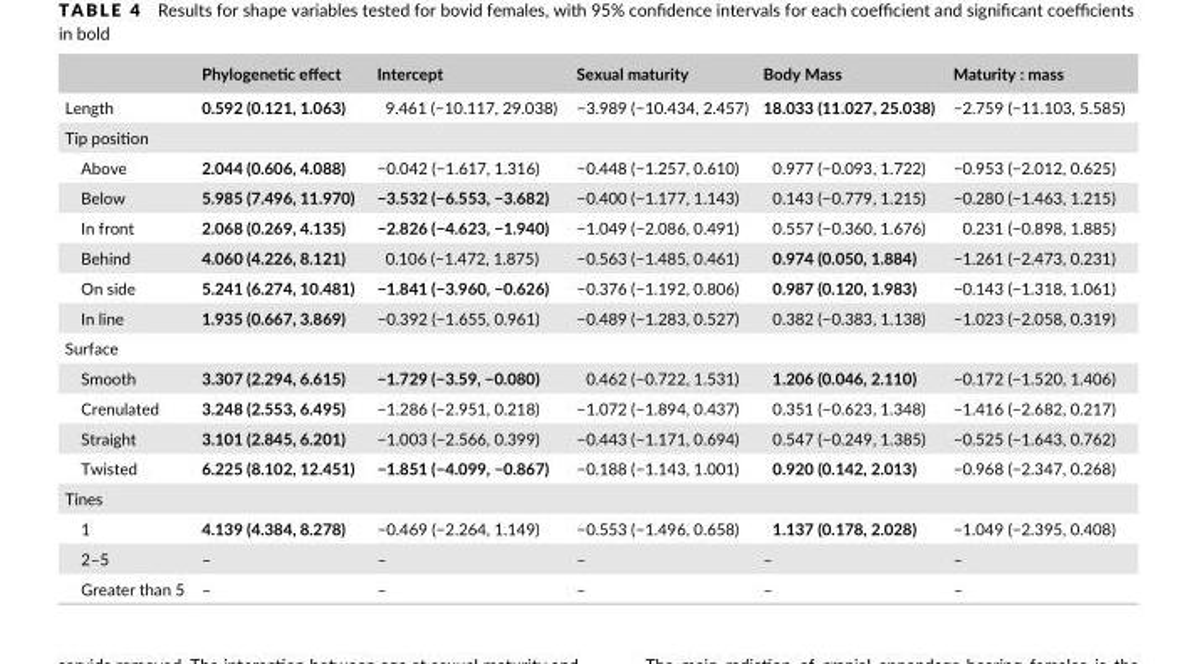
<table><thead><tr><td></td><td>Phylogenetic effect</td><td>Intercept</td><td>Sexual maturity</td><td>Body Mass</td><td>Maturity : mass</td></tr></thead><tbody><tr><td>Length</td><td>0.592 (0.121, 1.063)</td><td>9.461 (−10.117, 29.038)</td><td>−3.989 (−10.434, 2.457)</td><td>18.033 (11.027, 25.038)</td><td>−2.759 (−11.103, 5.585)</td></tr><tr><td colspan="6">Tip position</td></tr><tr><td>Above</td><td>2.044 (0.606, 4.088)</td><td>−0.042 (−1.617, 1.316)</td><td>−0.448 (−1.257, 0.610)</td><td>0.977 (−0.093, 1.722)</td><td>−0.953 (−2.012, 0.625)</td></tr><tr><td>Below</td><td>5.985 (7.496, 11.970)</td><td>−3.532 (−6.553, −3.682)</td><td>−0.400 (−1.177, 1.143)</td><td>0.143 (−0.779, 1.215)</td><td>−0.280 (−1.463, 1.215)</td></tr><tr><td>In front</td><td>2.068 (0.269, 4.135)</td><td>−2.826 (−4.623, −1.940)</td><td>−1.049 (−2.086, 0.491)</td><td>0.557 (−0.360, 1.676)</td><td>0.231 (−0.898, 1.885)</td></tr><tr><td>Behind</td><td>4.060 (4.226, 8.121)</td><td>0.106 (−1.472, 1.875)</td><td>−0.563 (−1.485, 0.461)</td><td>0.974 (0.050, 1.884)</td><td>−1.261 (−2.473, 0.231)</td></tr><tr><td>On side</td><td>5.241 (6.274, 10.481)</td><td>−1.841 (−3.960, −0.626)</td><td>−0.376 (−1.192, 0.806)</td><td>0.987 (0.120, 1.983)</td><td>−0.143 (−1.318, 1.061)</td></tr><tr><td>In line</td><td>1.935 (0.667, 3.869)</td><td>−0.392 (−1.655, 0.961)</td><td>−0.489 (−1.283, 0.527)</td><td>0.382 (−0.383, 1.138)</td><td>−1.023 (−2.058, 0.319)</td></tr><tr><td colspan="6">Surface</td></tr><tr><td>Smooth</td><td>3.307 (2.294, 6.615)</td><td>−1.729 (−3.59, −0.080)</td><td>0.462 (−0.722, 1.531)</td><td>1.206 (0.046, 2.110)</td><td>−0.172 (−1.520, 1.406)</td></tr><tr><td>Crenulated</td><td>3.248 (2.553, 6.495)</td><td>−1.286 (−2.951, 0.218)</td><td>−1.072 (−1.894, 0.437)</td><td>0.351 (−0.623, 1.348)</td><td>−1.416 (−2.682, 0.217)</td></tr><tr><td>Straight</td><td>3.101 (2.845, 6.201)</td><td>−1.003 (−2.566, 0.399)</td><td>−0.443 (−1.171, 0.694)</td><td>0.547 (−0.249, 1.385)</td><td>−0.525 (−1.643, 0.762)</td></tr><tr><td>Twisted</td><td>6.225 (8.102, 12.451)</td><td>−1.851 (−4.099, −0.867)</td><td>−0.188 (−1.143, 1.001)</td><td>0.920 (0.142, 2.013)</td><td>−0.968 (−2.347, 0.268)</td></tr><tr><td colspan="6">Tines</td></tr><tr><td>1</td><td>4.139 (4.384, 8.278)</td><td>−0.469 (−2.264, 1.149)</td><td>−0.553 (−1.496, 0.658)</td><td>1.137 (0.178, 2.028)</td><td>−1.049 (−2.395, 0.408)</td></tr><tr><td>2–5</td><td>–</td><td>–</td><td>–</td><td>–</td><td>–</td></tr><tr><td>Greater than 5</td><td>–</td><td>–</td><td>–</td><td>–</td><td>–</td></tr></tbody></table>